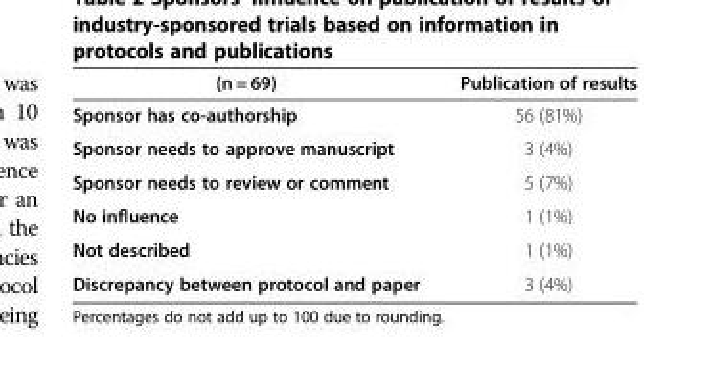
<table><thead><tr><td>(n = 69)</td><td>Publication of results</td></tr></thead><tbody><tr><td>Sponsor has co-authorship</td><td>56 (81%)</td></tr><tr><td>Sponsor needs to approve manuscript</td><td>3 (4%)</td></tr><tr><td>Sponsor needs to review or comment</td><td>5 (7%)</td></tr><tr><td>No influence</td><td>1 (1%)</td></tr><tr><td>Not described</td><td>1 (1%)</td></tr><tr><td>Discrepancy between protocol and paper</td><td>3 (4%)</td></tr></tbody></table>